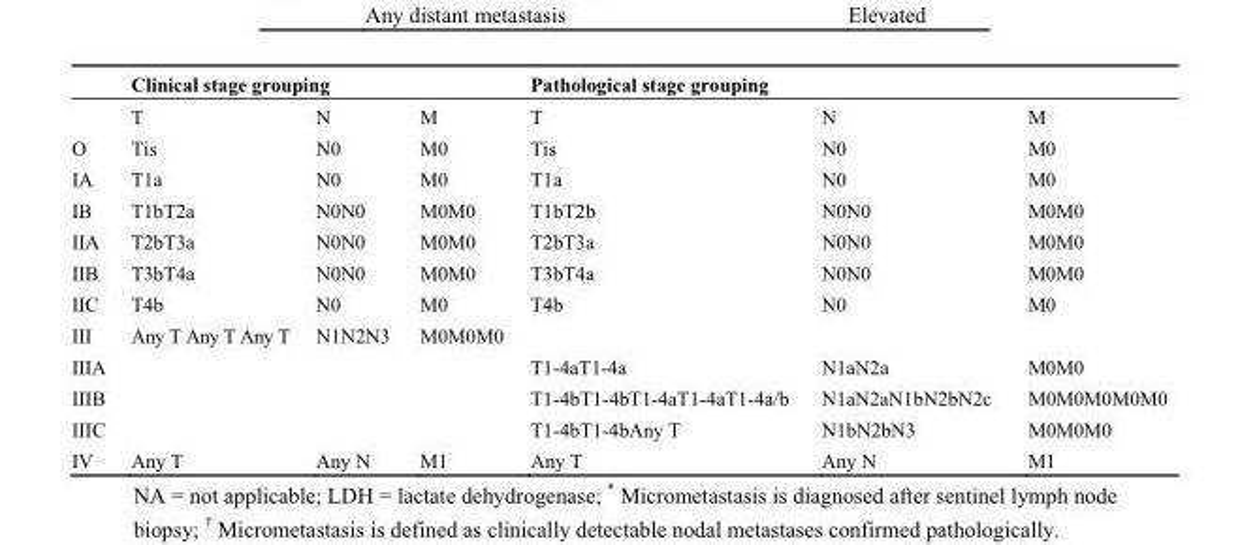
<table><thead><tr><td rowspan="2"></td><td colspan="3">Clinical stage grouping</td><td colspan="3">Pathological stage grouping</td></tr><tr><td>T</td><td>N</td><td>M</td><td>T</td><td>N</td><td>M</td></tr></thead><tbody><tr><td>O</td><td>Tis</td><td>N0</td><td>M0</td><td>Tis</td><td>N0</td><td>M0</td></tr><tr><td>IA</td><td>T1a</td><td>N0</td><td>M0</td><td>T1a</td><td>N0</td><td>M0</td></tr><tr><td>IB</td><td>T1bT2a</td><td>N0N0</td><td>M0M0</td><td>T1bT2b</td><td>N0N0</td><td>M0M0</td></tr><tr><td>IIA</td><td>T2bT3a</td><td>N0N0</td><td>M0M0</td><td>T2bT3a</td><td>N0N0</td><td>M0M0</td></tr><tr><td>IIB</td><td>T3bT4a</td><td>N0N0</td><td>M0M0</td><td>T3bT4a</td><td>N0N0</td><td>M0M0</td></tr><tr><td>IIC</td><td>T4b</td><td>N0</td><td>M0</td><td>T4b</td><td>N0</td><td>M0</td></tr><tr><td>III</td><td>Any T Any T Any T</td><td>N1N2N3</td><td>M0M0M0</td><td></td><td></td><td></td></tr><tr><td>IIIA</td><td></td><td></td><td></td><td>T1-4aT1-4a</td><td>N1aN2a</td><td>M0M0</td></tr><tr><td>IIIB</td><td></td><td></td><td></td><td>T1-4bT1-4bT1-4aT1-4aT1-4a/b</td><td>N1aN2aN1bN2bN2c</td><td>M0M0M0M0M0</td></tr><tr><td>IIIC</td><td></td><td></td><td></td><td>T1-4bT1-4bAny T</td><td>N1bN2bN3</td><td>M0M0M0</td></tr><tr><td>IV</td><td>Any T</td><td>Any N</td><td>M1</td><td>Any T</td><td>Any N</td><td>M1</td></tr></tbody></table>